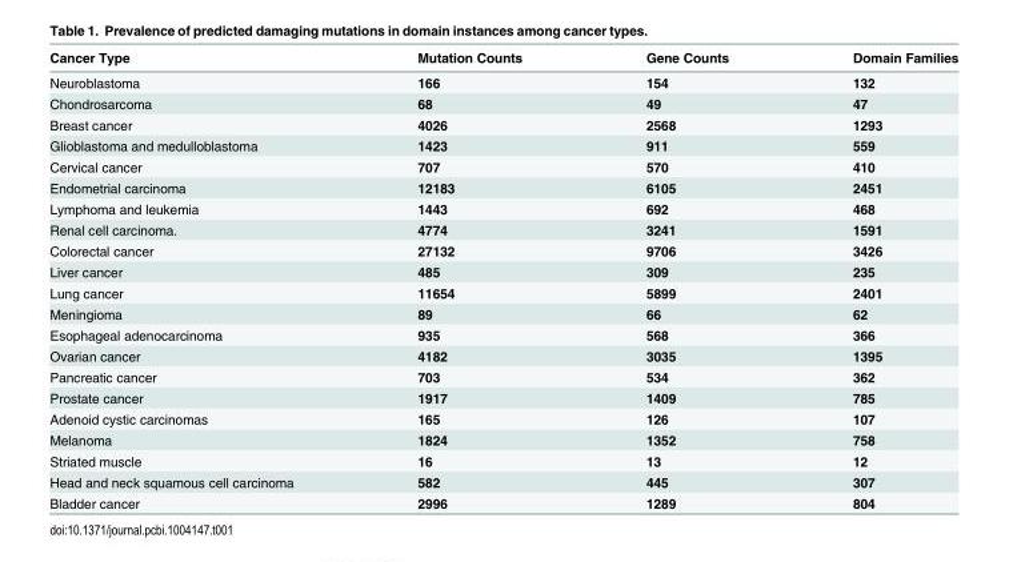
<table><thead><tr><td>Cancer Type</td><td>Mutation Counts</td><td>Gene Counts</td><td>Domain Families</td></tr></thead><tbody><tr><td>Neuroblastoma</td><td>166</td><td>154</td><td>132</td></tr><tr><td>Chondrosarcoma</td><td>68</td><td>49</td><td>47</td></tr><tr><td>Breast cancer</td><td>4026</td><td>2568</td><td>1293</td></tr><tr><td>Glioblastoma and medulloblastoma</td><td>1423</td><td>911</td><td>559</td></tr><tr><td>Cervical cancer</td><td>707</td><td>570</td><td>410</td></tr><tr><td>Endometrial carcinoma</td><td>12183</td><td>6105</td><td>2451</td></tr><tr><td>Lymphoma and leukemia</td><td>1443</td><td>692</td><td>468</td></tr><tr><td>Renal cell carcinoma.</td><td>4774</td><td>3241</td><td>1591</td></tr><tr><td>Colorectal cancer</td><td>27132</td><td>9706</td><td>3426</td></tr><tr><td>Liver cancer</td><td>485</td><td>309</td><td>235</td></tr><tr><td>Lung cancer</td><td>11654</td><td>5899</td><td>2401</td></tr><tr><td>Meningioma</td><td>89</td><td>66</td><td>62</td></tr><tr><td>Esophageal adenocarcinoma</td><td>935</td><td>568</td><td>366</td></tr><tr><td>Ovarian cancer</td><td>4182</td><td>3035</td><td>1395</td></tr><tr><td>Pancreatic cancer</td><td>703</td><td>534</td><td>362</td></tr><tr><td>Prostate cancer</td><td>1917</td><td>1409</td><td>785</td></tr><tr><td>Adenoid cystic carcinomas</td><td>165</td><td>126</td><td>107</td></tr><tr><td>Melanoma</td><td>1824</td><td>1352</td><td>758</td></tr><tr><td>Striated muscle</td><td>16</td><td>13</td><td>12</td></tr><tr><td>Head and neck squamous cell carcinoma</td><td>582</td><td>445</td><td>307</td></tr><tr><td>Bladder cancer</td><td>2996</td><td>1289</td><td>804</td></tr></tbody></table>